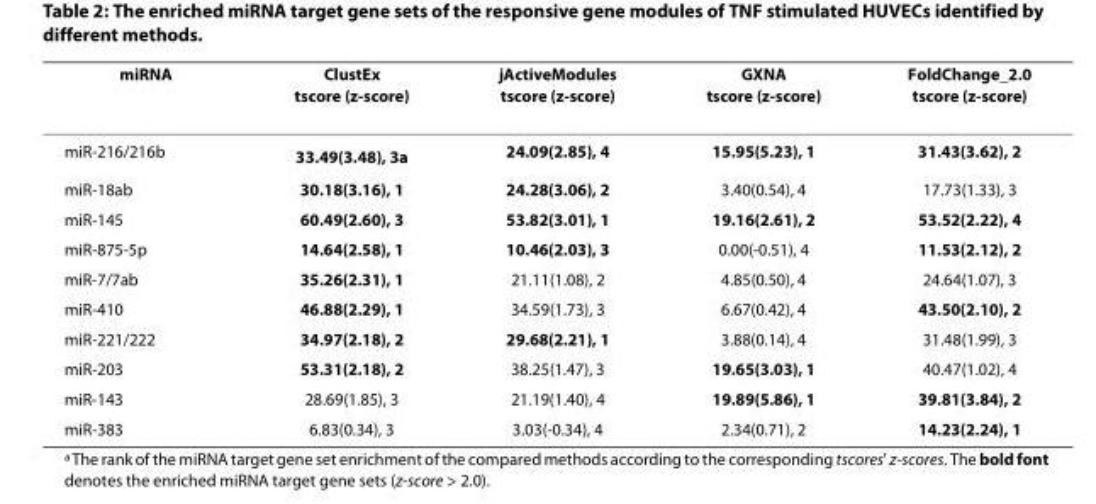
<table><thead><tr><td>miRNA</td><td>ClustEx tscore (z-score)</td><td>jActiveModules tscore (z-score)</td><td>GXNA tscore (z-score)</td><td>FoldChange_2.0 tscore (z-score)</td></tr></thead><tbody><tr><td>miR-216/216b</td><td>33.49(3.48), 3<sup>a</sup></td><td>24.09(2.85), 4</td><td>15.95(5.23), 1</td><td>31.43(3.62), 2</td></tr><tr><td>miR-18ab</td><td>30.18(3.16), 1</td><td>24.28(3.06), 2</td><td>3.40(0.54), 4</td><td>17.73(1.33), 3</td></tr><tr><td>miR-145</td><td>60.49(2.60), 3</td><td>53.82(3.01), 1</td><td>19.16(2.61), 2</td><td>53.52(2.22), 4</td></tr><tr><td>miR-875-5p</td><td>14.64(2.58), 1</td><td>10.46(2.03), 3</td><td>0.00(-0.51), 4</td><td>11.53(2.12), 2</td></tr><tr><td>miR-7/7ab</td><td>35.26(2.31), 1</td><td>21.11(1.08), 2</td><td>4.85(0.50), 4</td><td>24.64(1.07), 3</td></tr><tr><td>miR-410</td><td>46.88(2.29), 1</td><td>34.59(1.73), 3</td><td>6.67(0.42), 4</td><td>43.50(2.10), 2</td></tr><tr><td>miR-221/222</td><td>34.97(2.18), 2</td><td>29.68(2.21), 1</td><td>3.88(0.14), 4</td><td>31.48(1.99), 3</td></tr><tr><td>miR-203</td><td>53.31(2.18), 2</td><td>38.25(1.47), 3</td><td>19.65(3.03), 1</td><td>40.47(1.02), 4</td></tr><tr><td>miR-143</td><td>28.69(1.85), 3</td><td>21.19(1.40), 4</td><td>19.89(5.86), 1</td><td>39.81(3.84), 2</td></tr><tr><td>miR-383</td><td>6.83(0.34), 3</td><td>3.03(-0.34), 4</td><td>2.34(0.71), 2</td><td>14.23(2.24), 1</td></tr></tbody></table>